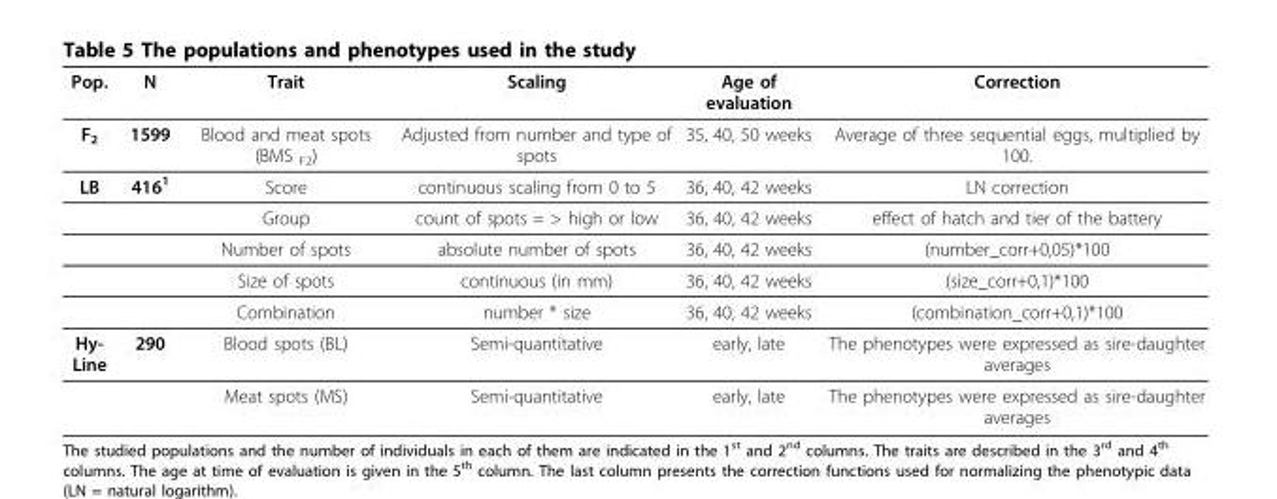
<table><thead><tr><td>Pop.</td><td>N</td><td>Trait</td><td>Scaling</td><td>Age of evaluation</td><td>Correction</td></tr></thead><tbody><tr><td>F<sub>2</sub></td><td>1599</td><td>Blood and meat spots (BMS <sub>F2</sub>)</td><td>Adjusted from number and type of spots</td><td>35, 40, 50 weeks</td><td>Average of three sequential eggs, multiplied by 100.</td></tr><tr><td rowspan="5">LB</td><td>416<sup>1</sup></td><td>Score</td><td>continuous scaling from 0 to 5</td><td>36, 40, 42 weeks</td><td>LN correction</td></tr><tr><td></td><td>Group</td><td>count of spots = &gt; high or low</td><td>36, 40, 42 weeks</td><td>effect of hatch and tier of the battery</td></tr><tr><td></td><td>Number of spots</td><td>absolute number of spots</td><td>36, 40, 42 weeks</td><td>(number_corr+0,05)*100</td></tr><tr><td></td><td>Size of spots</td><td>continuous (in mm)</td><td>36, 40, 42 weeks</td><td>(size_corr+0,1)*100</td></tr><tr><td></td><td>Combination</td><td>number * size</td><td>36, 40, 42 weeks</td><td>(combination_corr+0,1)*100</td></tr><tr><td rowspan="2">Hy- Line</td><td>290</td><td>Blood spots (BL)</td><td>Semi-quantitative</td><td>early, late</td><td>The phenotypes were expressed as sire-daughter averages</td></tr><tr><td></td><td>Meat spots (MS)</td><td>Semi-quantitative</td><td>early, late</td><td>The phenotypes were expressed as sire-daughter averages</td></tr></tbody></table>